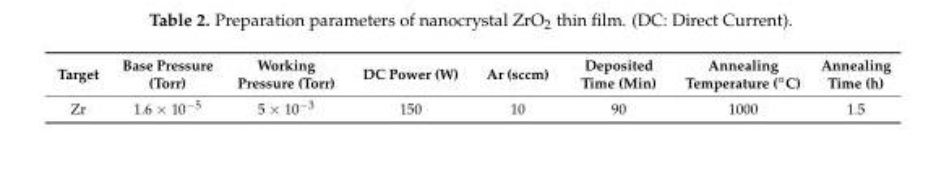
<table><thead><tr><td>Target</td><td>Base Pressure (Torr)</td><td>Working Pressure (Torr)</td><td>DC Power (W)</td><td>Ar (sccm)</td><td>Deposited Time (Min)</td><td>Annealing Temperature (◦C)</td><td>Annealing Time (h)</td></tr></thead><tbody><tr><td>Zr</td><td>1.6 × 10<sup>−5</sup></td><td>5 × 10<sup>−3</sup></td><td>150</td><td>10</td><td>90</td><td>1000</td><td>1.5</td></tr></tbody></table>